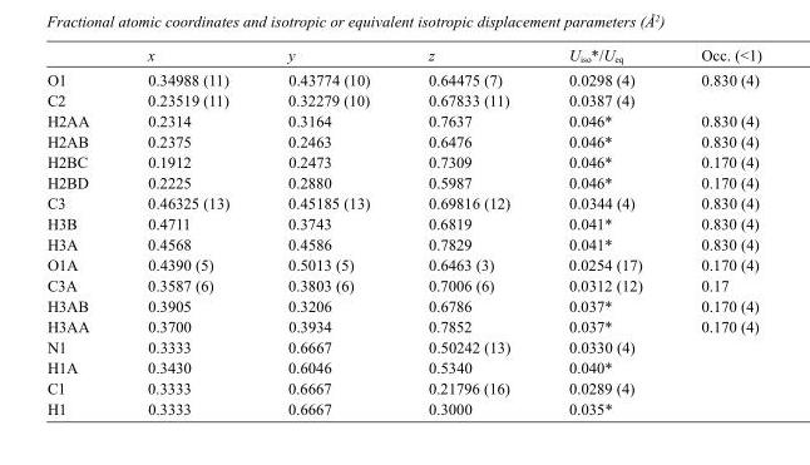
<table><thead><tr><td></td><td>x</td><td>y</td><td>z</td><td>U<sub>iso</sub>*/U<sub>eq</sub></td><td>Occ. (&lt;1)</td></tr></thead><tbody><tr><td>O1</td><td>0.34988 (11)</td><td>0.43774 (10)</td><td>0.64475 (7)</td><td>0.0298 (4)</td><td>0.830 (4)</td></tr><tr><td>C2</td><td>0.23519 (11)</td><td>0.32279 (10)</td><td>0.67833 (11)</td><td>0.0387 (4)</td><td></td></tr><tr><td>H2AA</td><td>0.2314</td><td>0.3164</td><td>0.7637</td><td>0.046*</td><td>0.830 (4)</td></tr><tr><td>H2AB</td><td>0.2375</td><td>0.2463</td><td>0.6476</td><td>0.046*</td><td>0.830 (4)</td></tr><tr><td>H2BC</td><td>0.1912</td><td>0.2473</td><td>0.7309</td><td>0.046*</td><td>0.170 (4)</td></tr><tr><td>H2BD</td><td>0.2225</td><td>0.2880</td><td>0.5987</td><td>0.046*</td><td>0.170 (4)</td></tr><tr><td>C3</td><td>0.46325 (13)</td><td>0.45185 (13)</td><td>0.69816 (12)</td><td>0.0344 (4)</td><td>0.830 (4)</td></tr><tr><td>H3B</td><td>0.4711</td><td>0.3743</td><td>0.6819</td><td>0.041*</td><td>0.830 (4)</td></tr><tr><td>H3A</td><td>0.4568</td><td>0.4586</td><td>0.7829</td><td>0.041*</td><td>0.830 (4)</td></tr><tr><td>O1A</td><td>0.4390 (5)</td><td>0.5013 (5)</td><td>0.6463 (3)</td><td>0.0254 (17)</td><td>0.170 (4)</td></tr><tr><td>C3A</td><td>0.3587 (6)</td><td>0.3803 (6)</td><td>0.7006 (6)</td><td>0.0312 (12)</td><td>0.17</td></tr><tr><td>H3AB</td><td>0.3905</td><td>0.3206</td><td>0.6786</td><td>0.037*</td><td>0.170 (4)</td></tr><tr><td>H3AA</td><td>0.3700</td><td>0.3934</td><td>0.7852</td><td>0.037*</td><td>0.170 (4)</td></tr><tr><td>N1</td><td>0.3333</td><td>0.6667</td><td>0.50242 (13)</td><td>0.0330 (4)</td><td></td></tr><tr><td>H1A</td><td>0.3430</td><td>0.6046</td><td>0.5340</td><td>0.040*</td><td></td></tr><tr><td>C1</td><td>0.3333</td><td>0.6667</td><td>0.21796 (16)</td><td>0.0289 (4)</td><td></td></tr><tr><td>H1</td><td>0.3333</td><td>0.6667</td><td>0.3000</td><td>0.035*</td><td></td></tr></tbody></table>